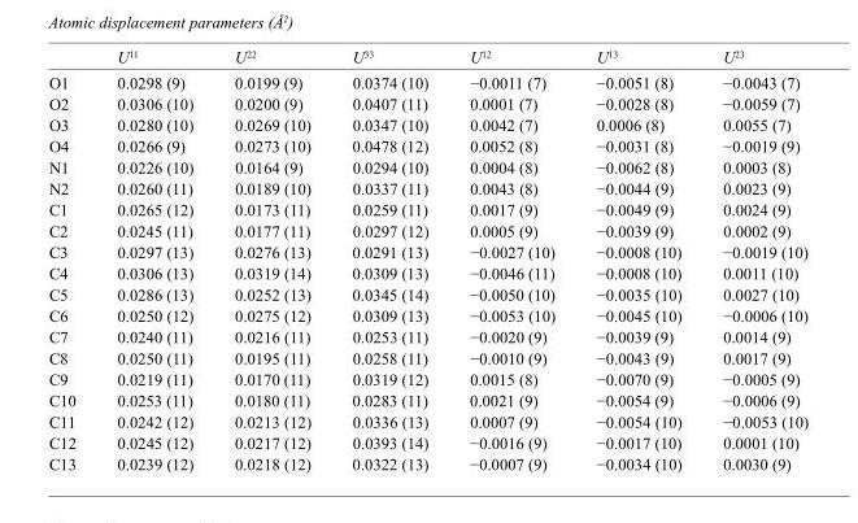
<table><thead><tr><td></td><td>U<sup>11</sup></td><td>U<sup>22</sup></td><td>U<sup>33</sup></td><td>U<sup>12</sup></td><td>U<sup>13</sup></td><td>U<sup>23</sup></td></tr></thead><tbody><tr><td>O1</td><td>0.0298 (9)</td><td>0.0199 (9)</td><td>0.0374 (10)</td><td>−0.0011 (7)</td><td>−0.0051 (8)</td><td>−0.0043 (7)</td></tr><tr><td>O2</td><td>0.0306 (10)</td><td>0.0200 (9)</td><td>0.0407 (11)</td><td>0.0001 (7)</td><td>−0.0028 (8)</td><td>−0.0059 (7)</td></tr><tr><td>O3</td><td>0.0280 (10)</td><td>0.0269 (10)</td><td>0.0347 (10)</td><td>0.0042 (7)</td><td>0.0006 (8)</td><td>0.0055 (7)</td></tr><tr><td>O4</td><td>0.0266 (9)</td><td>0.0273 (10)</td><td>0.0478 (12)</td><td>0.0052 (8)</td><td>−0.0031 (8)</td><td>−0.0019 (9)</td></tr><tr><td>N1</td><td>0.0226 (10)</td><td>0.0164 (9)</td><td>0.0294 (10)</td><td>0.0004 (8)</td><td>−0.0062 (8)</td><td>0.0003 (8)</td></tr><tr><td>N2</td><td>0.0260 (11)</td><td>0.0189 (10)</td><td>0.0337 (11)</td><td>0.0043 (8)</td><td>−0.0044 (9)</td><td>0.0023 (9)</td></tr><tr><td>C1</td><td>0.0265 (12)</td><td>0.0173 (11)</td><td>0.0259 (11)</td><td>0.0017 (9)</td><td>−0.0049 (9)</td><td>0.0024 (9)</td></tr><tr><td>C2</td><td>0.0245 (11)</td><td>0.0177 (11)</td><td>0.0297 (12)</td><td>0.0005 (9)</td><td>−0.0039 (9)</td><td>0.0002 (9)</td></tr><tr><td>C3</td><td>0.0297 (13)</td><td>0.0276 (13)</td><td>0.0291 (13)</td><td>−0.0027 (10)</td><td>−0.0008 (10)</td><td>−0.0019 (10)</td></tr><tr><td>C4</td><td>0.0306 (13)</td><td>0.0319 (14)</td><td>0.0309 (13)</td><td>−0.0046 (11)</td><td>−0.0008 (10)</td><td>0.0011 (10)</td></tr><tr><td>C5</td><td>0.0286 (13)</td><td>0.0252 (13)</td><td>0.0345 (14)</td><td>−0.0050 (10)</td><td>−0.0035 (10)</td><td>0.0027 (10)</td></tr><tr><td>C6</td><td>0.0250 (12)</td><td>0.0275 (12)</td><td>0.0309 (13)</td><td>−0.0053 (10)</td><td>−0.0045 (10)</td><td>−0.0006 (10)</td></tr><tr><td>C7</td><td>0.0240 (11)</td><td>0.0216 (11)</td><td>0.0253 (11)</td><td>−0.0020 (9)</td><td>−0.0039 (9)</td><td>0.0014 (9)</td></tr><tr><td>C8</td><td>0.0250 (11)</td><td>0.0195 (11)</td><td>0.0258 (11)</td><td>−0.0010 (9)</td><td>−0.0043 (9)</td><td>0.0017 (9)</td></tr><tr><td>C9</td><td>0.0219 (11)</td><td>0.0170 (11)</td><td>0.0319 (12)</td><td>0.0015 (8)</td><td>−0.0070 (9)</td><td>−0.0005 (9)</td></tr><tr><td>C10</td><td>0.0253 (11)</td><td>0.0180 (11)</td><td>0.0283 (11)</td><td>0.0021 (9)</td><td>−0.0054 (9)</td><td>−0.0006 (9)</td></tr><tr><td>C11</td><td>0.0242 (12)</td><td>0.0213 (12)</td><td>0.0336 (13)</td><td>0.0007 (9)</td><td>−0.0054 (10)</td><td>−0.0053 (10)</td></tr><tr><td>C12</td><td>0.0245 (12)</td><td>0.0217 (12)</td><td>0.0393 (14)</td><td>−0.0016 (9)</td><td>−0.0017 (10)</td><td>0.0001 (10)</td></tr><tr><td>C13</td><td>0.0239 (12)</td><td>0.0218 (12)</td><td>0.0322 (13)</td><td>−0.0007 (9)</td><td>−0.0034 (10)</td><td>0.0030 (9)</td></tr></tbody></table>